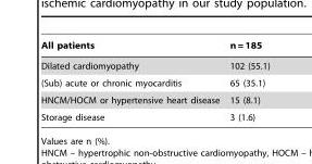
<table><thead><tr><td>All patients</td><td>n = 185</td></tr></thead><tbody><tr><td>Dilated cardiomyopathy</td><td>102 (55.1)</td></tr><tr><td>(Sub) acute or chronic myocarditis</td><td>65 (35.1)</td></tr><tr><td>HNCM/HOCM or hypertensive heart disease</td><td>15 (8.1)</td></tr><tr><td>Storage disease</td><td>3 (1.6)</td></tr></tbody></table>